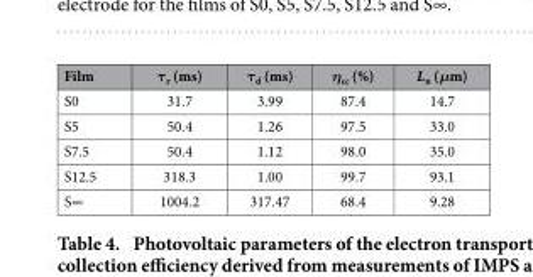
<table><thead><tr><td>Film</td><td>τ<sub>r</sub> (ms)</td><td>τ<sub>d</sub> (ms)</td><td>η<sub>cc</sub> (%)</td><td>L<sub>n</sub> (μm)</td></tr></thead><tbody><tr><td>S0</td><td>31.7</td><td>3.99</td><td>87.4</td><td>14.7</td></tr><tr><td>S5</td><td>50.4</td><td>1.26</td><td>97.5</td><td>33.0</td></tr><tr><td>S7.5</td><td>50.4</td><td>1.12</td><td>98.0</td><td>35.0</td></tr><tr><td>S12.5</td><td>318.3</td><td>1.00</td><td>99.7</td><td>93.1</td></tr><tr><td>S∞</td><td>1004.2</td><td>317.47</td><td>68.4</td><td>9.28</td></tr></tbody></table>